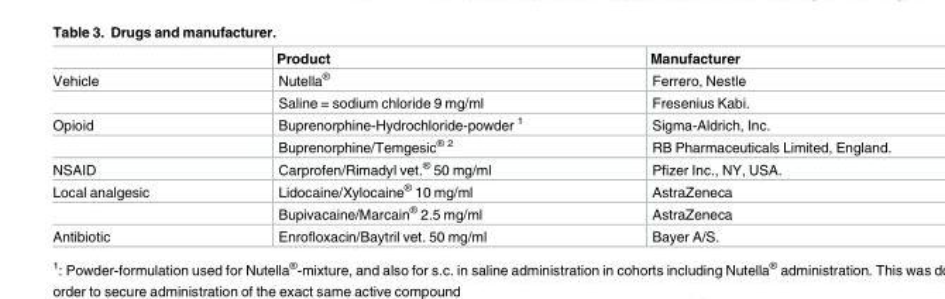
<table><thead><tr><td></td><td>Product</td><td>Manufacturer</td></tr></thead><tbody><tr><td rowspan="2">Vehicle</td><td>Nutella<sup>®</sup></td><td>Ferrero, Nestle</td></tr><tr><td>Saline = sodium chloride 9 mg/ml</td><td>Fresenius Kabi.</td></tr><tr><td rowspan="2">Opioid</td><td>Buprenorphine-Hydrochloride-powder <sup>1</sup></td><td>Sigma-Aldrich, Inc.</td></tr><tr><td>Buprenorphine/Temgesic<sup>® 2</sup></td><td>RB Pharmaceuticals Limited, England.</td></tr><tr><td>NSAID</td><td>Carprofen/Rimadyl vet.<sup>®</sup> 50 mg/ml</td><td>Pfizer Inc., NY, USA.</td></tr><tr><td rowspan="2">Local analgesic</td><td>Lidocaine/Xylocaine<sup>®</sup> 10 mg/ml</td><td>AstraZeneca</td></tr><tr><td>Bupivacaine/Marcain<sup>®</sup> 2.5 mg/ml</td><td>AstraZeneca</td></tr><tr><td>Antibiotic</td><td>Enrofloxacin/Baytril vet. 50 mg/ml</td><td>Bayer A/S.</td></tr></tbody></table>